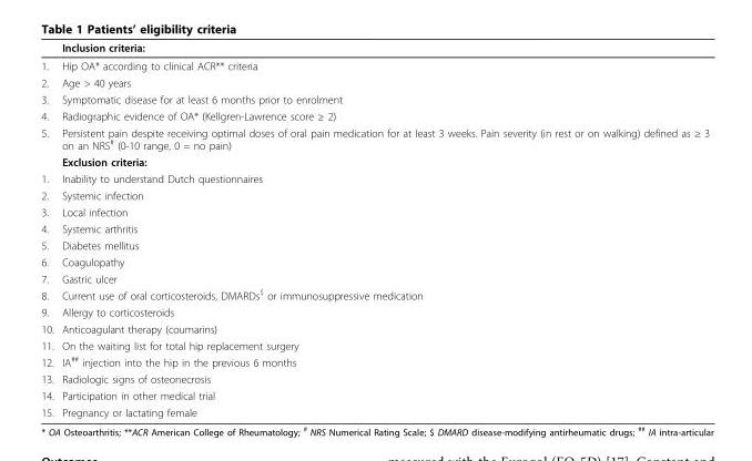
<table><thead><tr><td></td><td>Inclusion criteria:</td></tr></thead><tbody><tr><td>1.</td><td>Hip OA* according to clinical ACR** criteria</td></tr><tr><td>2.</td><td>Age &gt; 40 years</td></tr><tr><td>3.</td><td>Symptomatic disease for at least 6 months prior to enrolment</td></tr><tr><td>4.</td><td>Radiographic evidence of OA* (Kellgren-Lawrence score ≥ 2)</td></tr><tr><td rowspan="2">5.</td><td>Persistent pain despite receiving optimal doses of oral pain medication for at least 3 weeks. Pain severity (in rest or on walking) defined as ≥ 3 on an NRS<sup>#</sup> (0-10 range, 0 = no pain)</td></tr><tr><td>Exclusion criteria:</td></tr><tr><td>1.</td><td>Inability to understand Dutch questionnaires</td></tr><tr><td>2.</td><td>Systemic infection</td></tr><tr><td>3.</td><td>Local infection</td></tr><tr><td>4.</td><td>Systemic arthritis</td></tr><tr><td>5.</td><td>Diabetes mellitus</td></tr><tr><td>6.</td><td>Coagulopathy</td></tr><tr><td>7.</td><td>Gastric ulcer</td></tr><tr><td>8.</td><td>Current use of oral corticosteroids, DMARDs<sup>$</sup> or immunosuppressive medication</td></tr><tr><td>9.</td><td>Allergy to corticosteroids</td></tr><tr><td>10.</td><td>Anticoagulant therapy (coumarins)</td></tr><tr><td>11.</td><td>On the waiting list for total hip replacement surgery</td></tr><tr><td>12.</td><td>IA<sup>##</sup> injection into the hip in the previous 6 months</td></tr><tr><td>13.</td><td>Radiologic signs of osteonecrosis</td></tr><tr><td>14.</td><td>Participation in other medical trial</td></tr><tr><td>15.</td><td>Pregnancy or lactating female</td></tr></tbody></table>